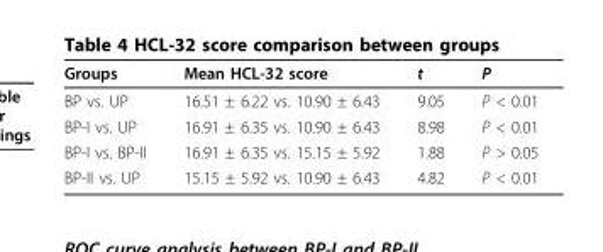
<table><thead><tr><td>Groups</td><td>Mean HCL-32 score</td><td>t</td><td>P</td></tr></thead><tbody><tr><td>BP vs. UP</td><td>16.51 ± 6.22 vs. 10.90 ± 6.43</td><td>9.05</td><td>P &lt; 0.01</td></tr><tr><td>BP-I vs. UP</td><td>16.91 ± 6.35 vs. 10.90 ± 6.43</td><td>8.98</td><td>P &lt; 0.01</td></tr><tr><td>BP-I vs. BP-II</td><td>16.91 ± 6.35 vs. 15.15 ± 5.92</td><td>1.88</td><td>P &gt; 0.05</td></tr><tr><td>BP-II vs. UP</td><td>15.15 ± 5.92 vs. 10.90 ± 6.43</td><td>4.82</td><td>P &lt; 0.01</td></tr></tbody></table>